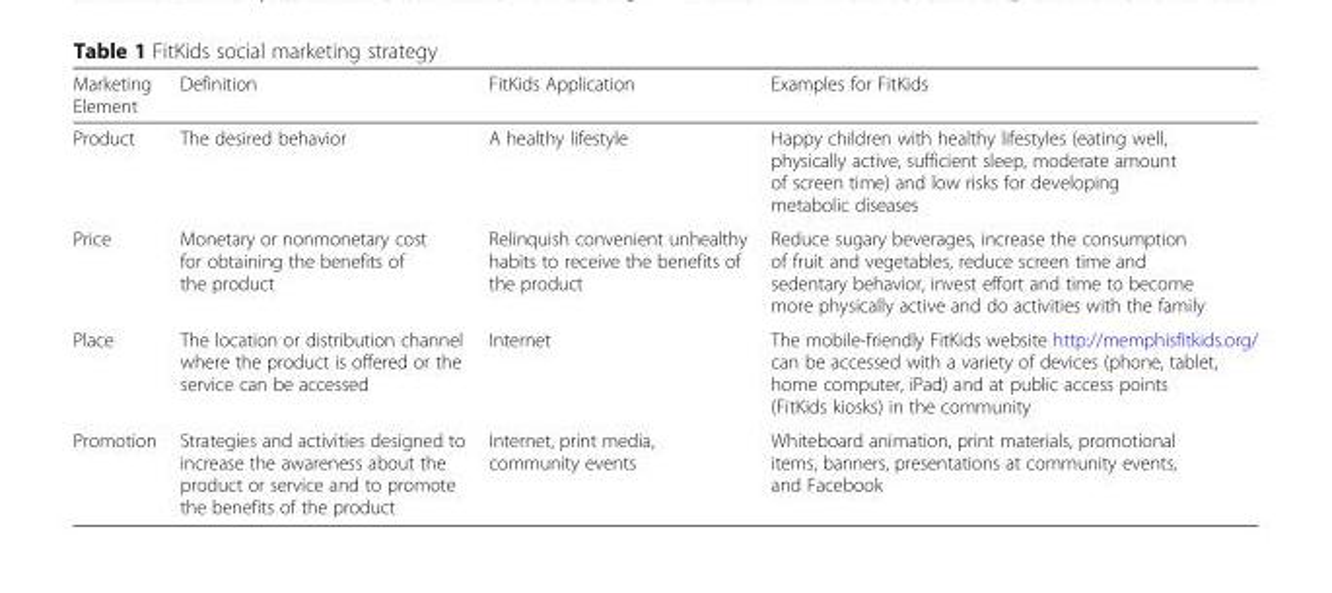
<table><thead><tr><td>Marketing Element</td><td>Definition</td><td>FitKids Application</td><td>Examples for FitKids</td></tr></thead><tbody><tr><td>Product</td><td>The desired behavior</td><td>A healthy lifestyle</td><td>Happy children with healthy lifestyles (eating well, physically active, sufficient sleep, moderate amount of screen time) and low risks for developing metabolic diseases</td></tr><tr><td>Price</td><td>Monetary or nonmonetary cost for obtaining the benefits of the product</td><td>Relinquish convenient unhealthy habits to receive the benefits of the product</td><td>Reduce sugary beverages, increase the consumption of fruit and vegetables, reduce screen time and sedentary behavior, invest effort and time to become more physically active and do activities with the family</td></tr><tr><td>Place</td><td>The location or distribution channel where the product is offered or the service can be accessed</td><td>Internet</td><td>The mobile-friendly FitKids website http://memphisfitkids.org/ can be accessed with a variety of devices (phone, tablet, home computer, iPad) and at public access points (FitKids kiosks) in the community</td></tr><tr><td>Promotion</td><td>Strategies and activities designed to increase the awareness about the product or service and to promote the benefits of the product</td><td>Internet, print media, community events</td><td>Whiteboard animation, print materials, promotional items, banners, presentations at community events, and Facebook</td></tr></tbody></table>